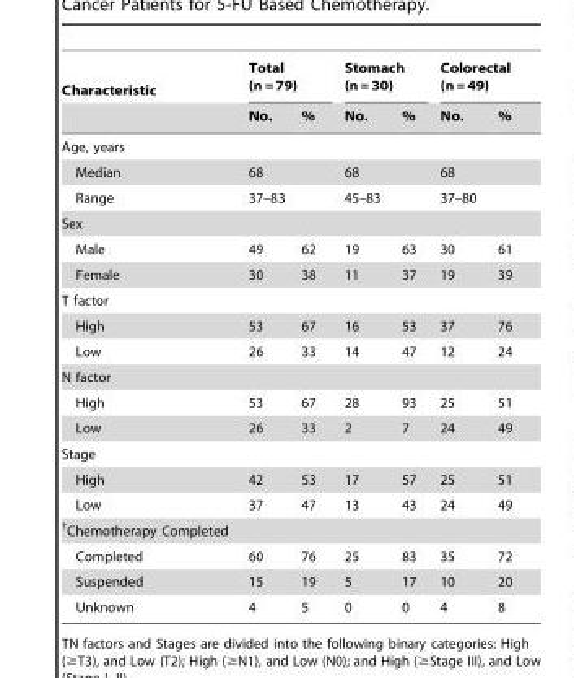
<table><thead><tr><td rowspan="2">Characteristic</td><td colspan="2">Total (n = 79)</td><td colspan="2">Stomach (n = 30)</td><td colspan="2">Colorectal (n = 49)</td></tr><tr><td>No.</td><td>%</td><td>No.</td><td>%</td><td>No.</td><td>%</td></tr></thead><tbody><tr><td colspan="7">Age, years</td></tr><tr><td>Median</td><td colspan="2">68</td><td colspan="2">68</td><td colspan="2">68</td></tr><tr><td>Range</td><td colspan="2">37–83</td><td colspan="2">45–83</td><td colspan="2">37–80</td></tr><tr><td colspan="7">Sex</td></tr><tr><td>Male</td><td>49</td><td>62</td><td>19</td><td>63</td><td>30</td><td>61</td></tr><tr><td>Female</td><td>30</td><td>38</td><td>11</td><td>37</td><td>19</td><td>39</td></tr><tr><td colspan="7">T factor</td></tr><tr><td>High</td><td>53</td><td>67</td><td>16</td><td>53</td><td>37</td><td>76</td></tr><tr><td>Low</td><td>26</td><td>33</td><td>14</td><td>47</td><td>12</td><td>24</td></tr><tr><td colspan="7">N factor</td></tr><tr><td>High</td><td>53</td><td>67</td><td>28</td><td>93</td><td>25</td><td>51</td></tr><tr><td>Low</td><td>26</td><td>33</td><td>2</td><td>7</td><td>24</td><td>49</td></tr><tr><td colspan="7">Stage</td></tr><tr><td>High</td><td>42</td><td>53</td><td>17</td><td>57</td><td>25</td><td>51</td></tr><tr><td>Low</td><td>37</td><td>47</td><td>13</td><td>43</td><td>24</td><td>49</td></tr><tr><td colspan="7">†Chemotherapy Completed</td></tr><tr><td>Completed</td><td>60</td><td>76</td><td>25</td><td>83</td><td>35</td><td>72</td></tr><tr><td>Suspended</td><td>15</td><td>19</td><td>5</td><td>17</td><td>10</td><td>20</td></tr><tr><td>Unknown</td><td>4</td><td>5</td><td>0</td><td>0</td><td>4</td><td>8</td></tr></tbody></table>